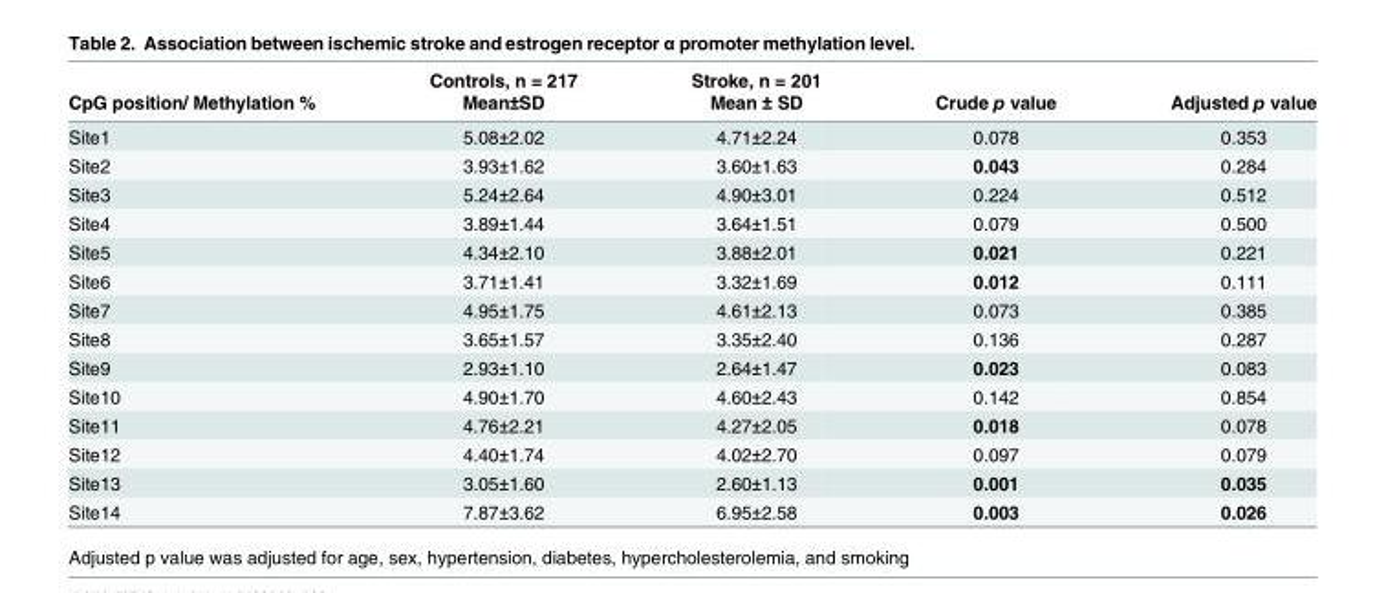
<table><thead><tr><td rowspan="2">CpG position/ Methylation %</td><td rowspan="2">Controls, n = 217 Mean±SD</td><td rowspan="2">Stroke, n = 201 Mean ± SD</td><td rowspan="2">Crude p value</td><td rowspan="2">Adjusted p value</td></tr><tr></tr></thead><tbody><tr><td>Site1</td><td>5.08±2.02</td><td>4.71±2.24</td><td>0.078</td><td>0.353</td></tr><tr><td>Site2</td><td>3.93±1.62</td><td>3.60±1.63</td><td>0.043</td><td>0.284</td></tr><tr><td>Site3</td><td>5.24±2.64</td><td>4.90±3.01</td><td>0.224</td><td>0.512</td></tr><tr><td>Site4</td><td>3.89±1.44</td><td>3.64±1.51</td><td>0.079</td><td>0.500</td></tr><tr><td>Site5</td><td>4.34±2.10</td><td>3.88±2.01</td><td>0.021</td><td>0.221</td></tr><tr><td>Site6</td><td>3.71±1.41</td><td>3.32±1.69</td><td>0.012</td><td>0.111</td></tr><tr><td>Site7</td><td>4.95±1.75</td><td>4.61±2.13</td><td>0.073</td><td>0.385</td></tr><tr><td>Site8</td><td>3.65±1.57</td><td>3.35±2.40</td><td>0.136</td><td>0.287</td></tr><tr><td>Site9</td><td>2.93±1.10</td><td>2.64±1.47</td><td>0.023</td><td>0.083</td></tr><tr><td>Site10</td><td>4.90±1.70</td><td>4.60±2.43</td><td>0.142</td><td>0.854</td></tr><tr><td>Site11</td><td>4.76±2.21</td><td>4.27±2.05</td><td>0.018</td><td>0.078</td></tr><tr><td>Site12</td><td>4.40±1.74</td><td>4.02±2.70</td><td>0.097</td><td>0.079</td></tr><tr><td>Site13</td><td>3.05±1.60</td><td>2.60±1.13</td><td>0.001</td><td>0.035</td></tr><tr><td>Site14</td><td>7.87±3.62</td><td>6.95±2.58</td><td>0.003</td><td>0.026</td></tr></tbody></table>